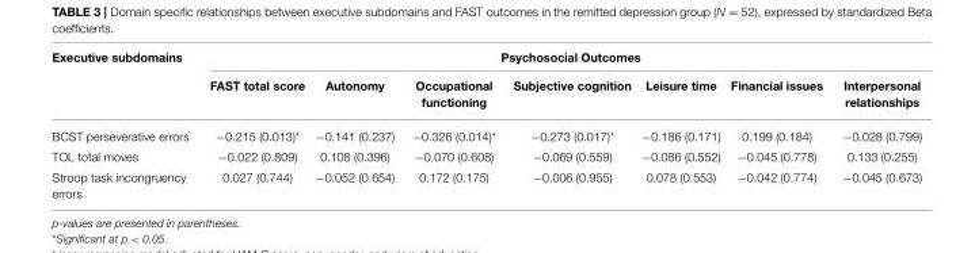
<table><thead><tr><td rowspan="2">Executive subdomains</td><td colspan="7">Psychosocial Outcomes</td></tr><tr><td>FAST total score</td><td>Autonomy</td><td>Occupational functioning</td><td>Subjective cognition</td><td>Leisure time</td><td>Financial issues</td><td>Interpersonal relationships</td></tr></thead><tbody><tr><td>BCST perseverative errors</td><td>−0.215 (0.013)*</td><td>−0.141 (0.237)</td><td>−0.326 (0.014)*</td><td>−0.273 (0.017)*</td><td>−0.186 (0.171)</td><td>0.199 (0.184)</td><td>−0.028 (0.799)</td></tr><tr><td>TOL total moves</td><td>−0.022 (0.809)</td><td>0.108 (0.396)</td><td>−0.070 (0.608)</td><td>−0.069 (0.559)</td><td>−0.086 (0.552)</td><td>−0.045 (0.778)</td><td>0.133 (0.255)</td></tr><tr><td>Stroop task incongruency errors</td><td>0.027 (0.744)</td><td>−0.052 (0.654)</td><td>0.172 (0.175)</td><td>−0.006 (0.955)</td><td>0.078 (0.553)</td><td>−0.042 (0.774)</td><td>−0.045 (0.673)</td></tr></tbody></table>